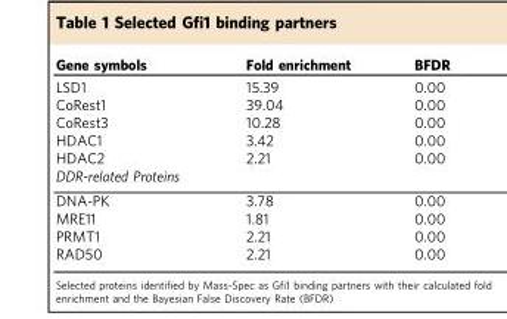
<table><thead><tr><td>Gene symbols</td><td>Fold enrichment</td><td>BFDR</td></tr></thead><tbody><tr><td>LSD1</td><td>15.39</td><td>0.00</td></tr><tr><td>CoRest1</td><td>39.04</td><td>0.00</td></tr><tr><td>CoRest3</td><td>10.28</td><td>0.00</td></tr><tr><td>HDAC1</td><td>3.42</td><td>0.00</td></tr><tr><td>HDAC2</td><td>2.21</td><td>0.00</td></tr><tr><td colspan="3">DDR-related Proteins</td></tr><tr><td>DNA-PK</td><td>3.78</td><td>0.00</td></tr><tr><td>MRE11</td><td>1.81</td><td>0.00</td></tr><tr><td>PRMT1</td><td>2.21</td><td>0.00</td></tr><tr><td>RAD50</td><td>2.21</td><td>0.00</td></tr></tbody></table>